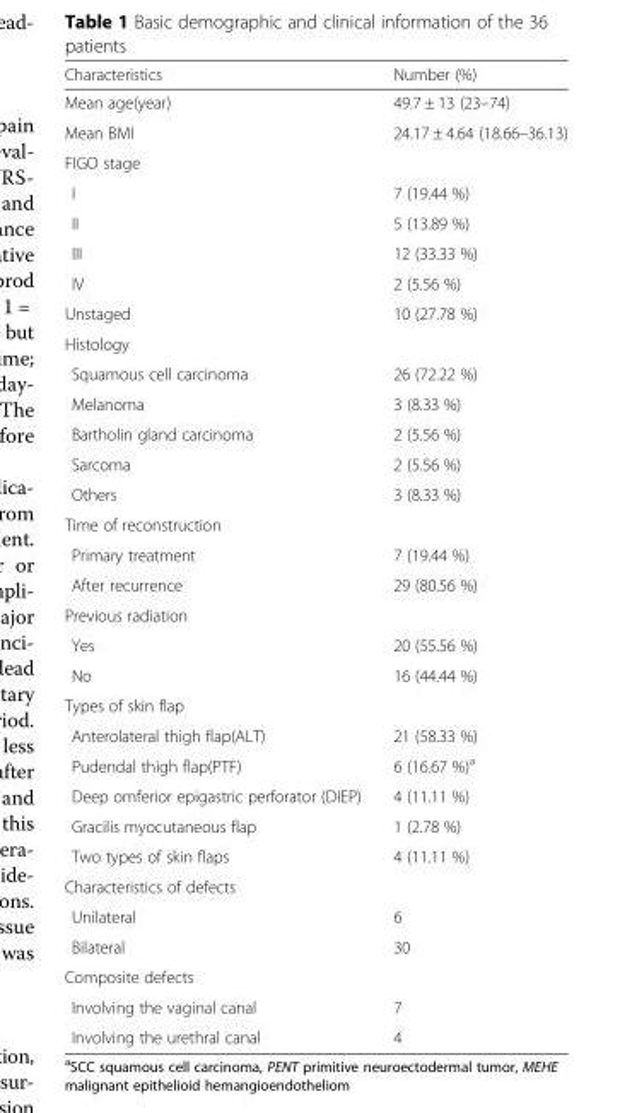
<table><thead><tr><td>Characteristics</td><td>Number (%)</td></tr></thead><tbody><tr><td>Mean age(year)</td><td>49.7 ± 13 (23–74)</td></tr><tr><td>Mean BMI</td><td>24.17 ± 4.64 (18.66–36.13)</td></tr><tr><td colspan="2">FIGO stage</td></tr><tr><td>I</td><td>7 (19.44 %)</td></tr><tr><td>II</td><td>5 (13.89 %)</td></tr><tr><td>ΙΙΙ</td><td>12 (33.33 %)</td></tr><tr><td>ΙV</td><td>2 (5.56 %)</td></tr><tr><td>Unstaged</td><td>10 (27.78 %)</td></tr><tr><td colspan="2">Histology</td></tr><tr><td>Squamous cell carcinoma</td><td>26 (72.22 %)</td></tr><tr><td>Melanoma</td><td>3 (8.33 %)</td></tr><tr><td>Bartholin gland carcinoma</td><td>2 (5.56 %)</td></tr><tr><td>Sarcoma</td><td>2 (5.56 %)</td></tr><tr><td>Others</td><td>3 (8.33 %)</td></tr><tr><td colspan="2">Time of reconstruction</td></tr><tr><td>Primary treatment</td><td>7 (19.44 %)</td></tr><tr><td>After recurrence</td><td>29 (80.56 %)</td></tr><tr><td colspan="2">Previous radiation</td></tr><tr><td>Yes</td><td>20 (55.56 %)</td></tr><tr><td>No</td><td>16 (44.44 %)</td></tr><tr><td colspan="2">Types of skin flap</td></tr><tr><td>Anterolateral thigh flap(ALT)</td><td>21 (58.33 %)</td></tr><tr><td>Pudendal thigh flap(PTF)</td><td>6 (16.67 %)<sup>a</sup></td></tr><tr><td>Deep omferior epigastric perforator (DIEP)</td><td>4 (11.11 %)</td></tr><tr><td>Gracilis myocutaneous flap</td><td>1 (2.78 %)</td></tr><tr><td>Two types of skin flaps</td><td>4 (11.11 %)</td></tr><tr><td colspan="2">Characteristics of defects</td></tr><tr><td>Unilateral</td><td>6</td></tr><tr><td>Bilateral</td><td>30</td></tr><tr><td colspan="2">Composite defects</td></tr><tr><td>Involving the vaginal canal</td><td>7</td></tr><tr><td>Involving the urethral canal</td><td>4</td></tr></tbody></table>